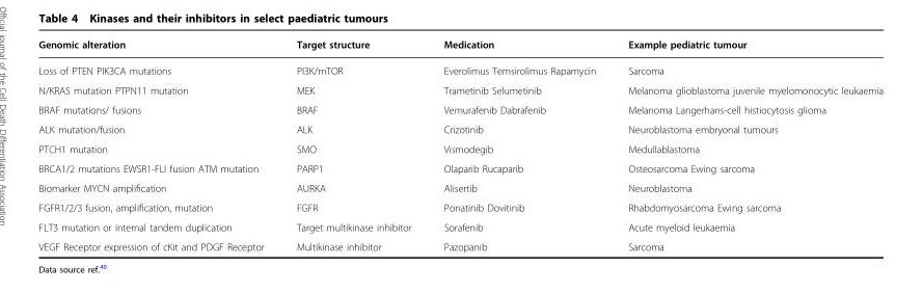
<table><thead><tr><td>Genomic alteration</td><td>Target structure</td><td>Medication</td><td>Example pediatric tumour</td></tr></thead><tbody><tr><td>Loss of PTEN PIK3CA mutations</td><td>PI3K/mTOR</td><td>Everolimus Temsirolimus Rapamycin</td><td>Sarcoma</td></tr><tr><td>N/KRAS mutation PTPN11 mutation</td><td>MEK</td><td>Trametinib Selumetinib</td><td>Melanoma glioblastoma juvenile myelomonocytic leukaemia</td></tr><tr><td>BRAF mutations/ fusions</td><td>BRAF</td><td>Vemurafenib Dabrafenib</td><td>Melanoma Langerhans-cell histiocytosis glioma</td></tr><tr><td>ALK mutation/fusion</td><td>ALK</td><td>Crizotinib</td><td>Neuroblastoma embryonal tumours</td></tr><tr><td>PTCH1 mutation</td><td>SMO</td><td>Vismodegib</td><td>Medullablastoma</td></tr><tr><td>BRCA1/2 mutations EWSR1-FLI fusion ATM mutation</td><td>PARP1</td><td>Olaparib Rucaparib</td><td>Osteosarcoma Ewing sarcoma</td></tr><tr><td>Biomarker MYCN amplification</td><td>AURKA</td><td>Alisertib</td><td>Neuroblastoma</td></tr><tr><td>FGFR1/2/3 fusion, amplification, mutation</td><td>FGFR</td><td>Ponatinib Dovitinib</td><td>Rhabdomyosarcoma Ewing sarcoma</td></tr><tr><td>FLT3 mutation or internal tandem duplication</td><td>Target multikinase inhibitor</td><td>Sorafenib</td><td>Acute myeloid leukaemia</td></tr><tr><td>VEGF Receptor expression of cKit and PDGF Receptor</td><td>Multikinase inhibitor</td><td>Pazopanib</td><td>Sarcoma</td></tr></tbody></table>